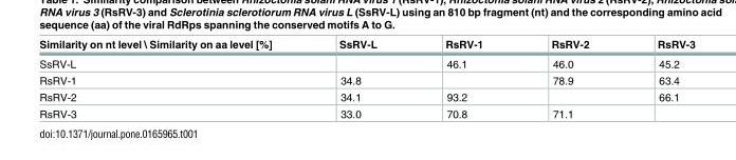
<table><thead><tr><td>Similarity on nt level \ Similarity on aa level [%]</td><td>SsRV-L</td><td>RsRV-1</td><td>RsRV-2</td><td>RsRV-3</td></tr></thead><tbody><tr><td>SsRV-L</td><td></td><td>46.1</td><td>46.0</td><td>45.2</td></tr><tr><td>RsRV-1</td><td>34.8</td><td></td><td>78.9</td><td>63.4</td></tr><tr><td>RsRV-2</td><td>34.1</td><td>93.2</td><td></td><td>66.1</td></tr><tr><td>RsRV-3</td><td>33.0</td><td>70.8</td><td>71.1</td><td></td></tr></tbody></table>